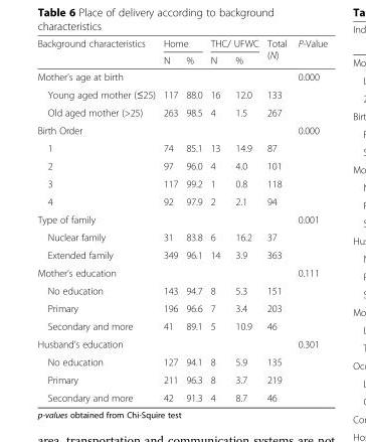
<table><thead><tr><td rowspan="2">Background characteristics</td><td colspan="2">Home</td><td colspan="2">THC/ UFWC</td><td rowspan="2">Total (N)</td><td rowspan="2">P-Value</td></tr><tr><td>N</td><td>%</td><td>N</td><td>%</td></tr></thead><tbody><tr><td>Mother’s age at birth</td><td></td><td></td><td></td><td></td><td></td><td>0.000</td></tr><tr><td>Young aged mother (≤25)</td><td>117</td><td>88.0</td><td>16</td><td>12.0</td><td>133</td><td></td></tr><tr><td>Old aged mother (&gt;25)</td><td>263</td><td>98.5</td><td>4</td><td>1.5</td><td>267</td><td></td></tr><tr><td>Birth Order</td><td></td><td></td><td></td><td></td><td></td><td>0.000</td></tr><tr><td>1</td><td>74</td><td>85.1</td><td>13</td><td>14.9</td><td>87</td><td></td></tr><tr><td>2</td><td>97</td><td>96.0</td><td>4</td><td>4.0</td><td>101</td><td></td></tr><tr><td>3</td><td>117</td><td>99.2</td><td>1</td><td>0.8</td><td>118</td><td></td></tr><tr><td>4</td><td>92</td><td>97.9</td><td>2</td><td>2.1</td><td>94</td><td></td></tr><tr><td>Type of family</td><td></td><td></td><td></td><td></td><td></td><td>0.001</td></tr><tr><td>Nuclear family</td><td>31</td><td>83.8</td><td>6</td><td>16.2</td><td>37</td><td></td></tr><tr><td>Extended family</td><td>349</td><td>96.1</td><td>14</td><td>3.9</td><td>363</td><td></td></tr><tr><td>Mother’s education</td><td></td><td></td><td></td><td></td><td></td><td>0.111</td></tr><tr><td>No education</td><td>143</td><td>94.7</td><td>8</td><td>5.3</td><td>151</td><td></td></tr><tr><td>Primary</td><td>196</td><td>96.6</td><td>7</td><td>3.4</td><td>203</td><td></td></tr><tr><td>Secondary and more</td><td>41</td><td>89.1</td><td>5</td><td>10.9</td><td>46</td><td></td></tr><tr><td>Husband’s education</td><td></td><td></td><td></td><td></td><td></td><td>0.301</td></tr><tr><td>No education</td><td>127</td><td>94.1</td><td>8</td><td>5.9</td><td>135</td><td></td></tr><tr><td>Primary</td><td>211</td><td>96.3</td><td>8</td><td>3.7</td><td>219</td><td></td></tr><tr><td>Secondary and more</td><td>42</td><td>91.3</td><td>4</td><td>8.7</td><td>46</td><td></td></tr></tbody></table>